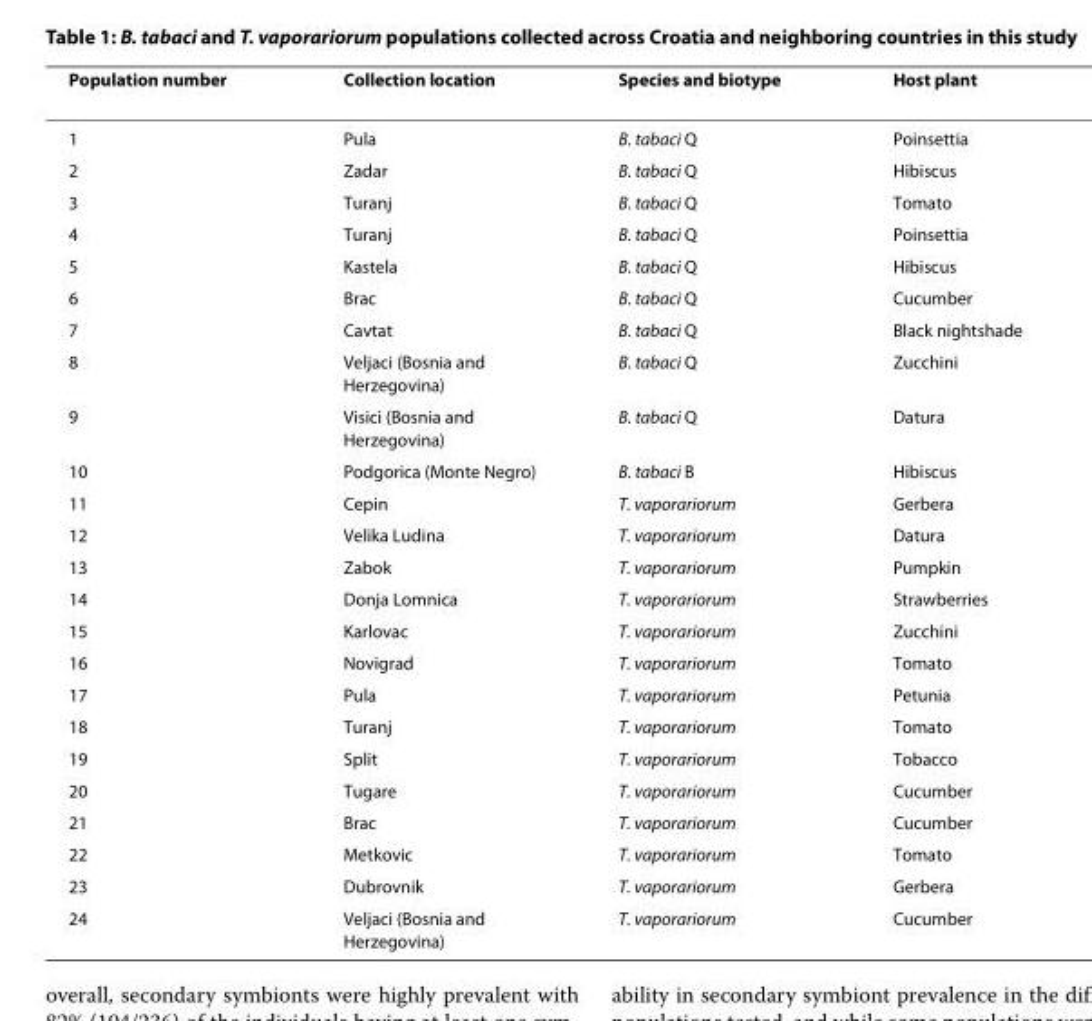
<table><thead><tr><td>Population number</td><td>Collection location</td><td>Species and biotype</td><td>Host plant</td></tr></thead><tbody><tr><td>1</td><td>Pula</td><td>B. tabaci Q</td><td>Poinsettia</td></tr><tr><td>2</td><td>Zadar</td><td>B. tabaci Q</td><td>Hibiscus</td></tr><tr><td>3</td><td>Turanj</td><td>B. tabaci Q</td><td>Tomato</td></tr><tr><td>4</td><td>Turanj</td><td>B. tabaci Q</td><td>Poinsettia</td></tr><tr><td>5</td><td>Kastela</td><td>B. tabaci Q</td><td>Hibiscus</td></tr><tr><td>6</td><td>Brac</td><td>B. tabaci Q</td><td>Cucumber</td></tr><tr><td>7</td><td>Cavtat</td><td>B. tabaci Q</td><td>Black nightshade</td></tr><tr><td>8</td><td>Veljaci (Bosnia and Herzegovina)</td><td>B. tabaci Q</td><td>Zucchini</td></tr><tr><td>9</td><td>Visici (Bosnia and Herzegovina)</td><td>B. tabaci Q</td><td>Datura</td></tr><tr><td>10</td><td>Podgorica (Monte Negro)</td><td>B. tabaci B</td><td>Hibiscus</td></tr><tr><td>11</td><td>Cepin</td><td>T. vaporariorum</td><td>Gerbera</td></tr><tr><td>12</td><td>Velika Ludina</td><td>T. vaporariorum</td><td>Datura</td></tr><tr><td>13</td><td>Zabok</td><td>T. vaporariorum</td><td>Pumpkin</td></tr><tr><td>14</td><td>Donja Lomnica</td><td>T. vaporariorum</td><td>Strawberries</td></tr><tr><td>15</td><td>Karlovac</td><td>T. vaporariorum</td><td>Zucchini</td></tr><tr><td>16</td><td>Novigrad</td><td>T. vaporariorum</td><td>Tomato</td></tr><tr><td>17</td><td>Pula</td><td>T. vaporariorum</td><td>Petunia</td></tr><tr><td>18</td><td>Turanj</td><td>T. vaporariorum</td><td>Tomato</td></tr><tr><td>19</td><td>Split</td><td>T. vaporariorum</td><td>Tobacco</td></tr><tr><td>20</td><td>Tugare</td><td>T. vaporariorum</td><td>Cucumber</td></tr><tr><td>21</td><td>Brac</td><td>T. vaporariorum</td><td>Cucumber</td></tr><tr><td>22</td><td>Metkovic</td><td>T. vaporariorum</td><td>Tomato</td></tr><tr><td>23</td><td>Dubrovnik</td><td>T. vaporariorum</td><td>Gerbera</td></tr><tr><td>24</td><td>Veljaci (Bosnia and Herzegovina)</td><td>T. vaporariorum</td><td>Cucumber</td></tr></tbody></table>